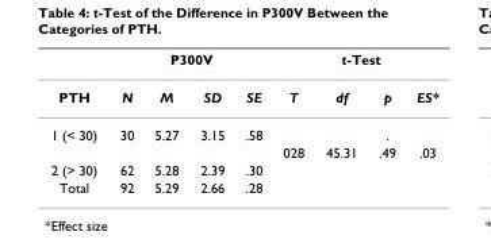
<table><thead><tr><td rowspan="2">PTH</td><td colspan="4">P300V</td><td colspan="4">t-Test</td></tr><tr><td>N</td><td>M</td><td>SD</td><td>SE</td><td>T</td><td>df</td><td>p</td><td>ES*</td></tr></thead><tbody><tr><td rowspan="2">1 (&lt; 30)</td><td>30</td><td>5.27</td><td>3.15</td><td>.58</td><td></td><td></td><td>.</td><td></td></tr><tr><td></td><td></td><td></td><td></td><td>028</td><td>45.31</td><td>.49</td><td>.03</td></tr><tr><td>2 (&gt; 30)</td><td>62</td><td>5.28</td><td>2.39</td><td>.30</td><td></td><td></td><td></td><td></td></tr><tr><td>Total</td><td>92</td><td>5.29</td><td>2.66</td><td>.28</td><td></td><td></td><td></td><td></td></tr></tbody></table>